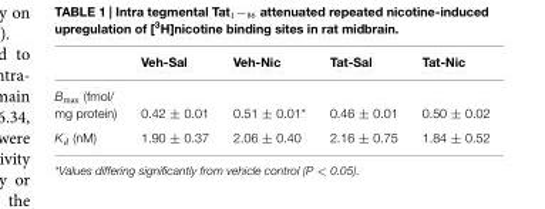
<table><thead><tr><td></td><td>Veh-Sal</td><td>Veh-Nic</td><td>Tat-Sal</td><td>Tat-Nic</td></tr></thead><tbody><tr><td>B<sub>max</sub> (fmol/ mg protein)</td><td>0.42 ± 0.01</td><td>0.51 ± 0.01*</td><td>0.46 ± 0.01</td><td>0.50 ± 0.02</td></tr><tr><td>K<sub>d</sub> (nM)</td><td>1.90 ± 0.37</td><td>2.06 ± 0.40</td><td>2.16 ± 0.75</td><td>1.84 ± 0.52</td></tr></tbody></table>